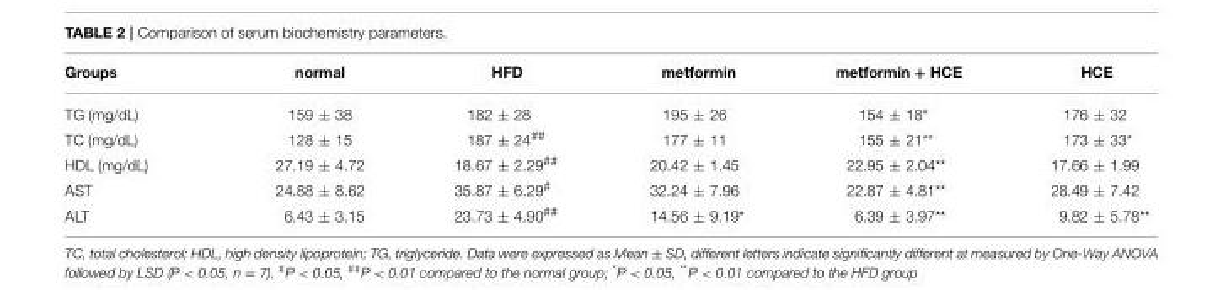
<table><thead><tr><td>Groups</td><td>normal</td><td>HFD</td><td>metformin</td><td>metformin + HCE</td><td>HCE</td></tr></thead><tbody><tr><td>TG (mg/dL)</td><td>159 ± 38</td><td>182 ± 28</td><td>195 ± 26</td><td>154 ± 18*</td><td>176 ± 32</td></tr><tr><td>TC (mg/dL)</td><td>128 ± 15</td><td>187 ± 24<sup>##</sup></td><td>177 ± 11</td><td>155 ± 21**</td><td>173 ± 33*</td></tr><tr><td>HDL (mg/dL)</td><td>27.19 ± 4.72</td><td>18.67 ± 2.29<sup>##</sup></td><td>20.42 ± 1.45</td><td>22.95 ± 2.04**</td><td>17.66 ± 1.99</td></tr><tr><td>AST</td><td>24.88 ± 8.62</td><td>35.87 ± 6.29<sup>#</sup></td><td>32.24 ± 7.96</td><td>22.87 ± 4.81**</td><td>28.49 ± 7.42</td></tr><tr><td>ALT</td><td>6.43 ± 3.15</td><td>23.73 ± 4.90<sup>##</sup></td><td>14.56 ± 9.19*</td><td>6.39 ± 3.97**</td><td>9.82 ± 5.78**</td></tr></tbody></table>